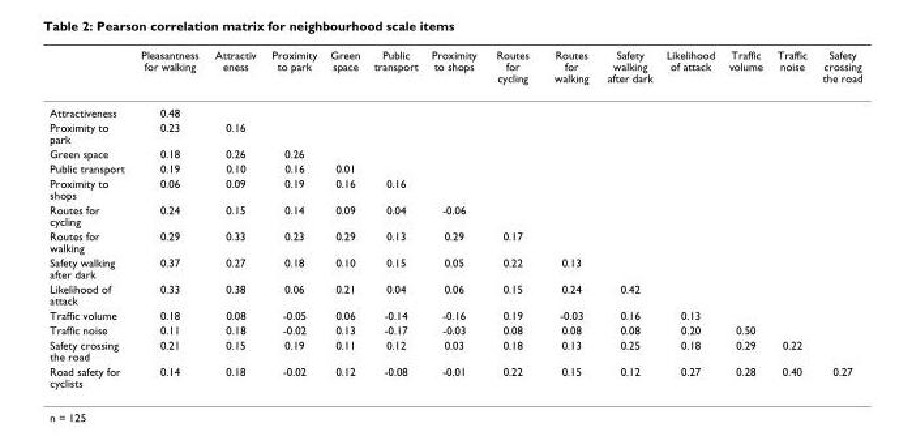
<table><thead><tr><td></td><td>Pleasantness for walking</td><td>Attractiv eness</td><td>Proximity to park</td><td>Green space</td><td>Public transport</td><td>Proximity to shops</td><td>Routes for cycling</td><td>Routes for walking</td><td>Safety walking after dark</td><td>Likelihood of attack</td><td>Traffic volume</td><td>Traffic noise</td><td>Safety crossing the road</td></tr></thead><tbody><tr><td>Attractiveness</td><td>0.48</td><td></td><td></td><td></td><td></td><td></td><td></td><td></td><td></td><td></td><td></td><td></td><td></td></tr><tr><td>Proximity to park</td><td>0.23</td><td>0.16</td><td></td><td></td><td></td><td></td><td></td><td></td><td></td><td></td><td></td><td></td><td></td></tr><tr><td>Green space</td><td>0.18</td><td>0.26</td><td>0.26</td><td></td><td></td><td></td><td></td><td></td><td></td><td></td><td></td><td></td><td></td></tr><tr><td>Public transport</td><td>0.19</td><td>0.10</td><td>0.16</td><td>0.01</td><td></td><td></td><td></td><td></td><td></td><td></td><td></td><td></td><td></td></tr><tr><td>Proximity to shops</td><td>0.06</td><td>0.09</td><td>0.19</td><td>0.16</td><td>0.16</td><td></td><td></td><td></td><td></td><td></td><td></td><td></td><td></td></tr><tr><td>Routes for cycling</td><td>0.24</td><td>0.15</td><td>0.14</td><td>0.09</td><td>0.04</td><td>-0.06</td><td></td><td></td><td></td><td></td><td></td><td></td><td></td></tr><tr><td>Routes for walking</td><td>0.29</td><td>0.33</td><td>0.23</td><td>0.29</td><td>0.13</td><td>0.29</td><td>0.17</td><td></td><td></td><td></td><td></td><td></td><td></td></tr><tr><td>Safety walking after dark</td><td>0.37</td><td>0.27</td><td>0.18</td><td>0.10</td><td>0.15</td><td>0.05</td><td>0.22</td><td>0.13</td><td></td><td></td><td></td><td></td><td></td></tr><tr><td>Likelihood of attack</td><td>0.33</td><td>0.38</td><td>0.06</td><td>0.21</td><td>0.04</td><td>0.06</td><td>0.15</td><td>0.24</td><td>0.42</td><td></td><td></td><td></td><td></td></tr><tr><td>Traffic volume</td><td>0.18</td><td>0.08</td><td>-0.05</td><td>0.06</td><td>-0.14</td><td>-0.16</td><td>0.19</td><td>-0.03</td><td>0.16</td><td>0.13</td><td></td><td></td><td></td></tr><tr><td>Traffic noise</td><td>0.11</td><td>0.18</td><td>-0.02</td><td>0.13</td><td>-0.17</td><td>-0.03</td><td>0.08</td><td>0.08</td><td>0.08</td><td>0.20</td><td>0.50</td><td></td><td></td></tr><tr><td>Safety crossing the road</td><td>0.21</td><td>0.15</td><td>0.19</td><td>0.11</td><td>0.12</td><td>0.03</td><td>0.18</td><td>0.13</td><td>0.25</td><td>0.18</td><td>0.29</td><td>0.22</td><td></td></tr><tr><td>Road safety for cyclists</td><td>0.14</td><td>0.18</td><td>-0.02</td><td>0.12</td><td>-0.08</td><td>-0.01</td><td>0.22</td><td>0.15</td><td>0.12</td><td>0.27</td><td>0.28</td><td>0.40</td><td>0.27</td></tr></tbody></table>